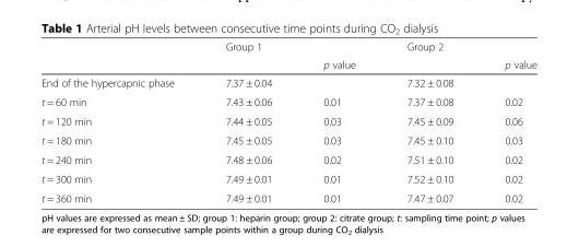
<table><thead><tr><td rowspan="2"></td><td rowspan="2">Group 1</td><td rowspan="2">p value</td><td rowspan="2">Group 2</td><td rowspan="2">p value</td></tr><tr></tr></thead><tbody><tr><td>End of the hypercapnic phase</td><td>7.37 ± 0.04</td><td></td><td>7.32 ± 0.08</td><td></td></tr><tr><td>t = 60 min</td><td>7.43 ± 0.06</td><td>0.01</td><td>7.37 ± 0.08</td><td>0.02</td></tr><tr><td>t = 120 min</td><td>7.44 ± 0.05</td><td>0.03</td><td>7.45 ± 0.09</td><td>0.06</td></tr><tr><td>t = 180 min</td><td>7.45 ± 0.05</td><td>0.03</td><td>7.45 ± 0.10</td><td>0.03</td></tr><tr><td>t = 240 min</td><td>7.48 ± 0.06</td><td>0.02</td><td>7.51 ± 0.10</td><td>0.02</td></tr><tr><td>t = 300 min</td><td>7.49 ± 0.01</td><td>0.01</td><td>7.52 ± 0.10</td><td>0.02</td></tr><tr><td>t = 360 min</td><td>7.49 ± 0.01</td><td>0.01</td><td>7.47 ± 0.07</td><td>0.02</td></tr></tbody></table>